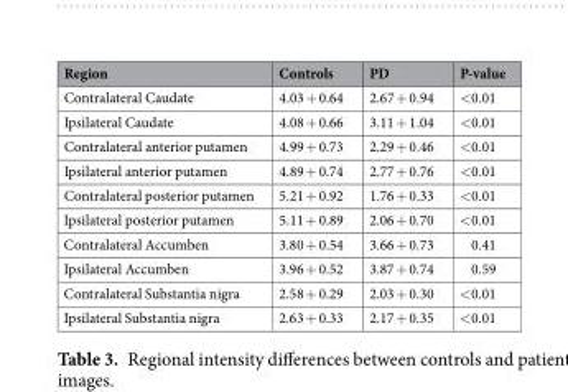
<table><thead><tr><td>Region</td><td>Controls</td><td>PD</td><td>P-value</td></tr></thead><tbody><tr><td>Contralateral Caudate</td><td>4.03 + 0.64</td><td>2.67 + 0.94</td><td>&lt;0.01</td></tr><tr><td>Ipsilateral Caudate</td><td>4.08 + 0.66</td><td>3.11 + 1.04</td><td>&lt;0.01</td></tr><tr><td>Contralateral anterior putamen</td><td>4.99 + 0.73</td><td>2.29 + 0.46</td><td>&lt;0.01</td></tr><tr><td>Ipsilateral anterior putamen</td><td>4.89 + 0.74</td><td>2.77 + 0.76</td><td>&lt;0.01</td></tr><tr><td>Contralateral posterior putamen</td><td>5.21 + 0.92</td><td>1.76 + 0.33</td><td>&lt;0.01</td></tr><tr><td>Ipsilateral posterior putamen</td><td>5.11 + 0.89</td><td>2.06 + 0.70</td><td>&lt;0.01</td></tr><tr><td>Contralateral Accumben</td><td>3.80 + 0.54</td><td>3.66 + 0.73</td><td>0.41</td></tr><tr><td>Ipsilateral Accumben</td><td>3.96 + 0.52</td><td>3.87 + 0.74</td><td>0.59</td></tr><tr><td>Contralateral Substantia nigra</td><td>2.58 + 0.29</td><td>2.03 + 0.30</td><td>&lt;0.01</td></tr><tr><td>Ipsilateral Substantia nigra</td><td>2.63 + 0.33</td><td>2.17 + 0.35</td><td>&lt;0.01</td></tr></tbody></table>